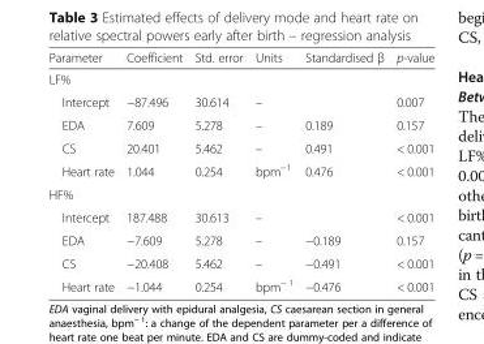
<table><thead><tr><td>Parameter</td><td>Coefficient</td><td>Std. error</td><td>Units</td><td>Standardised β</td><td>p-value</td></tr></thead><tbody><tr><td colspan="6">LF%</td></tr><tr><td>Intercept</td><td>−87.496</td><td>30.614</td><td>–</td><td></td><td>0.007</td></tr><tr><td>EDA</td><td>7.609</td><td>5.278</td><td>–</td><td>0.189</td><td>0.157</td></tr><tr><td>CS</td><td>20.401</td><td>5.462</td><td>–</td><td>0.491</td><td>&lt; 0.001</td></tr><tr><td>Heart rate</td><td>1.044</td><td>0.254</td><td>bpm<sup>−1</sup></td><td>0.476</td><td>&lt; 0.001</td></tr><tr><td colspan="6">HF%</td></tr><tr><td>Intercept</td><td>187.488</td><td>30.613</td><td>–</td><td></td><td>&lt; 0.001</td></tr><tr><td>EDA</td><td>−7.609</td><td>5.278</td><td>–</td><td>−0.189</td><td>0.157</td></tr><tr><td>CS</td><td>−20.408</td><td>5.462</td><td>–</td><td>−0.491</td><td>&lt; 0.001</td></tr><tr><td>Heart rate</td><td>−1.044</td><td>0.254</td><td>bpm<sup>− 1</sup></td><td>−0.476</td><td>&lt; 0.001</td></tr></tbody></table>